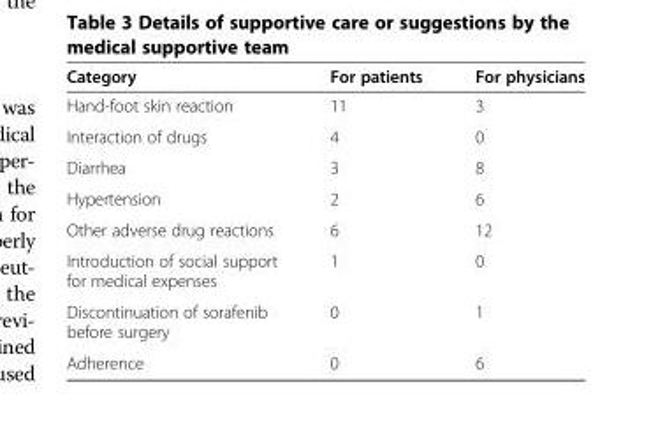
<table><thead><tr><td>Category</td><td>For patients</td><td>For physicians</td></tr></thead><tbody><tr><td>Hand-foot skin reaction</td><td>11</td><td>3</td></tr><tr><td>Interaction of drugs</td><td>4</td><td>0</td></tr><tr><td>Diarrhea</td><td>3</td><td>8</td></tr><tr><td>Hypertension</td><td>2</td><td>6</td></tr><tr><td>Other adverse drug reactions</td><td>6</td><td>12</td></tr><tr><td>Introduction of social support for medical expenses</td><td>1</td><td>0</td></tr><tr><td>Discontinuation of sorafenib before surgery</td><td>0</td><td>1</td></tr><tr><td>Adherence</td><td>0</td><td>6</td></tr></tbody></table>